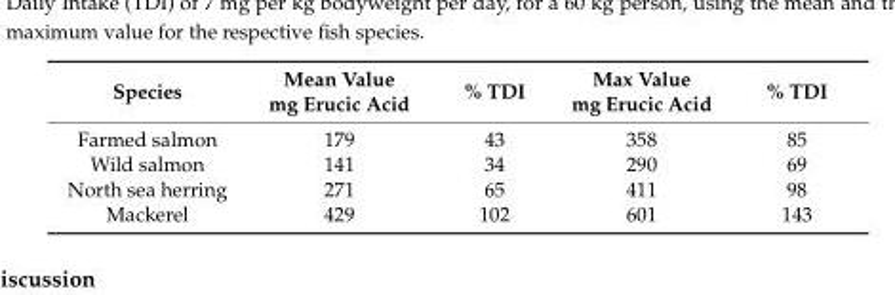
<table><thead><tr><td>Species</td><td>Mean Value mg Erucic Acid</td><td>% TDI</td><td>Max Value mg Erucic Acid</td><td>% TDI</td></tr></thead><tbody><tr><td>Farmed salmon</td><td>179</td><td>43</td><td>358</td><td>85</td></tr><tr><td>Wild salmon</td><td>141</td><td>34</td><td>290</td><td>69</td></tr><tr><td>North sea herring</td><td>271</td><td>65</td><td>411</td><td>98</td></tr><tr><td>Mackerel</td><td>429</td><td>102</td><td>601</td><td>143</td></tr></tbody></table>